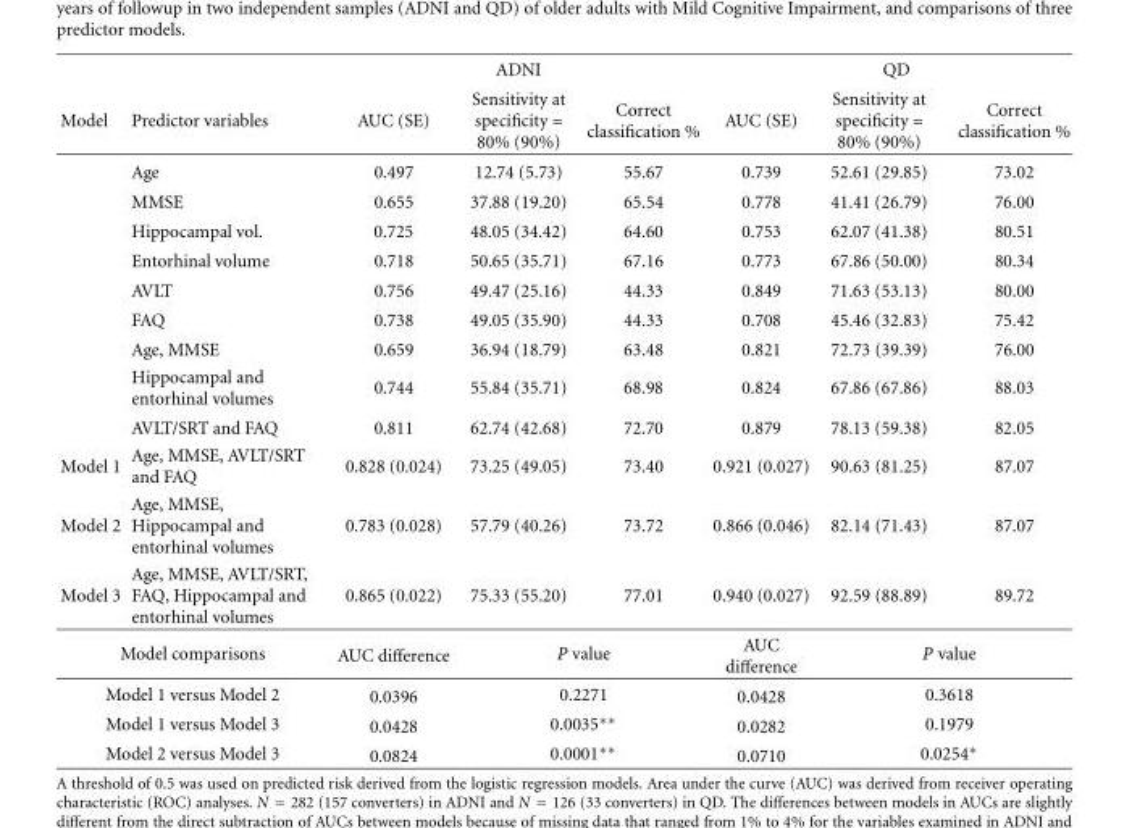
<table><thead><tr><td rowspan="2">Model</td><td rowspan="2">Predictor variables</td><td colspan="3">ADNI</td><td colspan="3">QD</td></tr><tr><td>AUC (SE)</td><td>Sensitivity at specificity = 80% (90%)</td><td>Correct classification %</td><td>AUC (SE)</td><td>Sensitivity at specificity = 80% (90%)</td><td>Correct classification %</td></tr></thead><tbody><tr><td></td><td>Age</td><td>0.497</td><td>12.74 (5.73)</td><td>55.67</td><td>0.739</td><td>52.61 (29.85)</td><td>73.02</td></tr><tr><td></td><td>MMSE</td><td>0.655</td><td>37.88 (19.20)</td><td>65.54</td><td>0.778</td><td>41.41 (26.79)</td><td>76.00</td></tr><tr><td></td><td>Hippocampal vol.</td><td>0.725</td><td>48.05 (34.42)</td><td>64.60</td><td>0.753</td><td>62.07 (41.38)</td><td>80.51</td></tr><tr><td></td><td>Entorhinal volume</td><td>0.718</td><td>50.65 (35.71)</td><td>67.16</td><td>0.773</td><td>67.86 (50.00)</td><td>80.34</td></tr><tr><td></td><td>AVLT</td><td>0.756</td><td>49.47 (25.16)</td><td>44.33</td><td>0.849</td><td>71.63 (53.13)</td><td>80.00</td></tr><tr><td></td><td>FAQ</td><td>0.738</td><td>49.05 (35.90)</td><td>44.33</td><td>0.708</td><td>45.46 (32.83)</td><td>75.42</td></tr><tr><td></td><td>Age, MMSE</td><td>0.659</td><td>36.94 (18.79)</td><td>63.48</td><td>0.821</td><td>72.73 (39.39)</td><td>76.00</td></tr><tr><td></td><td>Hippocampal and entorhinal volumes</td><td>0.744</td><td>55.84 (35.71)</td><td>68.98</td><td>0.824</td><td>67.86 (67.86)</td><td>88.03</td></tr><tr><td></td><td>AVLT/SRT and FAQ</td><td>0.811</td><td>62.74 (42.68)</td><td>72.70</td><td>0.879</td><td>78.13 (59.38)</td><td>82.05</td></tr><tr><td>Model 1</td><td>Age, MMSE, AVLT/SRT and FAQ</td><td>0.828 (0.024)</td><td>73.25 (49.05)</td><td>73.40</td><td>0.921 (0.027)</td><td>90.63 (81.25)</td><td>87.07</td></tr><tr><td>Model 2</td><td>Age, MMSE, Hippocampal and entorhinal volumes</td><td>0.783 (0.028)</td><td>57.79 (40.26)</td><td>73.72</td><td>0.866 (0.046)</td><td>82.14 (71.43)</td><td>87.07</td></tr><tr><td>Model 3</td><td>Age, MMSE, AVLT/SRT, FAQ, Hippocampal and entorhinal volumes</td><td>0.865 (0.022)</td><td>75.33 (55.20)</td><td>77.01</td><td>0.940 (0.027)</td><td>92.59 (88.89)</td><td>89.72</td></tr><tr><td colspan="2">Model comparisons</td><td>AUC difference</td><td colspan="2">P value</td><td>AUC difference</td><td colspan="2">P value</td></tr><tr><td colspan="2">Model 1 versus Model 2</td><td>0.0396</td><td colspan="2">0.2271</td><td>0.0428</td><td colspan="2">0.3618</td></tr><tr><td colspan="2">Model 1 versus Model 3</td><td>0.0428</td><td colspan="2">0.0035∗∗</td><td>0.0282</td><td colspan="2">0.1979</td></tr><tr><td colspan="2">Model 2 versus Model 3</td><td>0.0824</td><td colspan="2">0.0001∗∗</td><td>0.0710</td><td colspan="2">0.0254∗</td></tr></tbody></table>